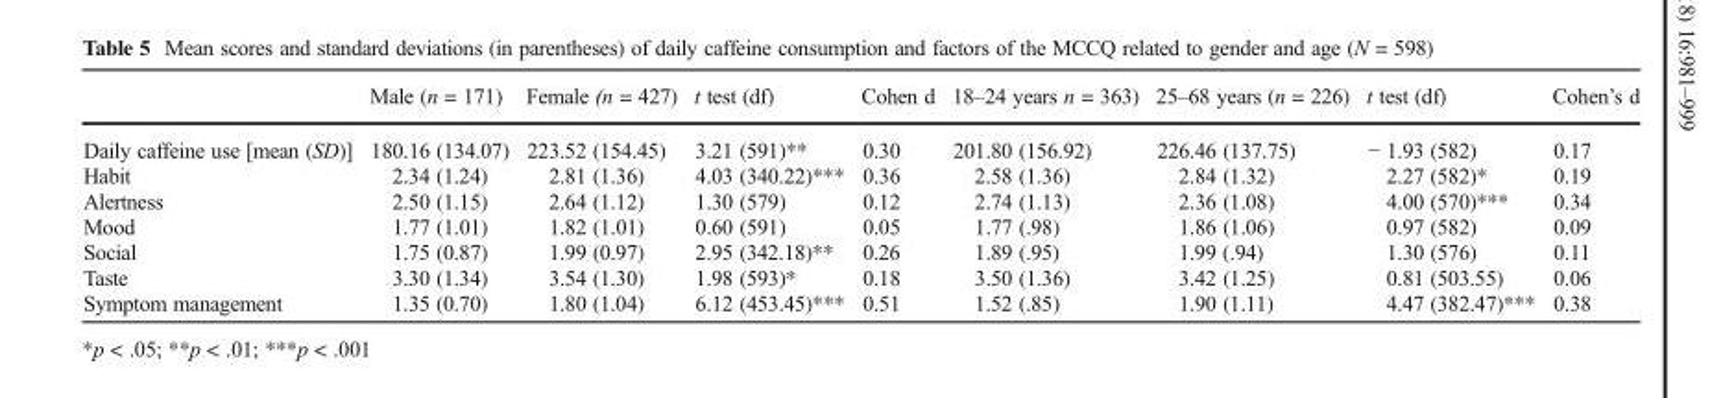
<table><thead><tr><td></td><td>Male (n = 171)</td><td>Female (n = 427)</td><td>t test (df)</td><td>Cohen d</td><td>18–24 years n = 363)</td><td>25–68 years (n = 226)</td><td>t test (df)</td><td>Cohen’s d</td></tr></thead><tbody><tr><td>Daily caffeine use [mean (SD)]</td><td>180.16 (134.07)</td><td>223.52 (154.45)</td><td>3.21 (591)**</td><td>0.30</td><td>201.80 (156.92)</td><td>226.46 (137.75)</td><td>− 1.93 (582)</td><td>0.17</td></tr><tr><td>Habit</td><td>2.34 (1.24)</td><td>2.81 (1.36)</td><td>4.03 (340.22)***</td><td>0.36</td><td>2.58 (1.36)</td><td>2.84 (1.32)</td><td>2.27 (582)*</td><td>0.19</td></tr><tr><td>Alertness</td><td>2.50 (1.15)</td><td>2.64 (1.12)</td><td>1.30 (579)</td><td>0.12</td><td>2.74 (1.13)</td><td>2.36 (1.08)</td><td>4.00 (570)***</td><td>0.34</td></tr><tr><td>Mood</td><td>1.77 (1.01)</td><td>1.82 (1.01)</td><td>0.60 (591)</td><td>0.05</td><td>1.77 (.98)</td><td>1.86 (1.06)</td><td>0.97 (582)</td><td>0.09</td></tr><tr><td>Social</td><td>1.75 (0.87)</td><td>1.99 (0.97)</td><td>2.95 (342.18)**</td><td>0.26</td><td>1.89 (.95)</td><td>1.99 (.94)</td><td>1.30 (576)</td><td>0.11</td></tr><tr><td>Taste</td><td>3.30 (1.34)</td><td>3.54 (1.30)</td><td>1.98 (593)*</td><td>0.18</td><td>3.50 (1.36)</td><td>3.42 (1.25)</td><td>0.81 (503.55)</td><td>0.06</td></tr><tr><td>Symptom management</td><td>1.35 (0.70)</td><td>1.80 (1.04)</td><td>6.12 (453.45)***</td><td>0.51</td><td>1.52 (.85)</td><td>1.90 (1.11)</td><td>4.47 (382.47)***</td><td>0.38</td></tr></tbody></table>